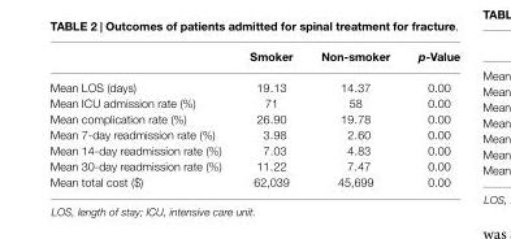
<table><thead><tr><td></td><td>Smoker</td><td>Non-smoker</td><td>p-Value</td></tr></thead><tbody><tr><td>Mean LOS (days)</td><td>19.13</td><td>14.37</td><td>0.00</td></tr><tr><td>Mean ICU admission rate (%)</td><td>71</td><td>58</td><td>0.00</td></tr><tr><td>Mean complication rate (%)</td><td>26.90</td><td>19.78</td><td>0.00</td></tr><tr><td>Mean 7-day readmission rate (%)</td><td>3.98</td><td>2.60</td><td>0.00</td></tr><tr><td>Mean 14-day readmission rate (%)</td><td>7.03</td><td>4.83</td><td>0.00</td></tr><tr><td>Mean 30-day readmission rate (%)</td><td>11.22</td><td>7.47</td><td>0.00</td></tr><tr><td>Mean total cost ($)</td><td>62,039</td><td>45,699</td><td>0.00</td></tr></tbody></table>